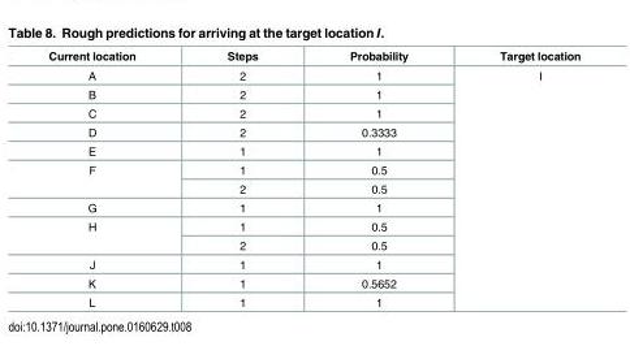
<table><thead><tr><td>Current location</td><td>Steps</td><td>Probability</td><td>Target location</td></tr></thead><tbody><tr><td>A</td><td>2</td><td>1</td><td rowspan="13">I</td></tr><tr><td>B</td><td>2</td><td>1</td></tr><tr><td>C</td><td>2</td><td>1</td></tr><tr><td>D</td><td>2</td><td>0.3333</td></tr><tr><td>E</td><td>1</td><td>1</td></tr><tr><td rowspan="2">F</td><td>1</td><td>0.5</td></tr><tr><td>2</td><td>0.5</td></tr><tr><td>G</td><td>1</td><td>1</td></tr><tr><td rowspan="2">H</td><td>1</td><td>0.5</td></tr><tr><td>2</td><td>0.5</td></tr><tr><td>J</td><td>1</td><td>1</td></tr><tr><td>K</td><td>1</td><td>0.5652</td></tr><tr><td>L</td><td>1</td><td>1</td></tr></tbody></table>